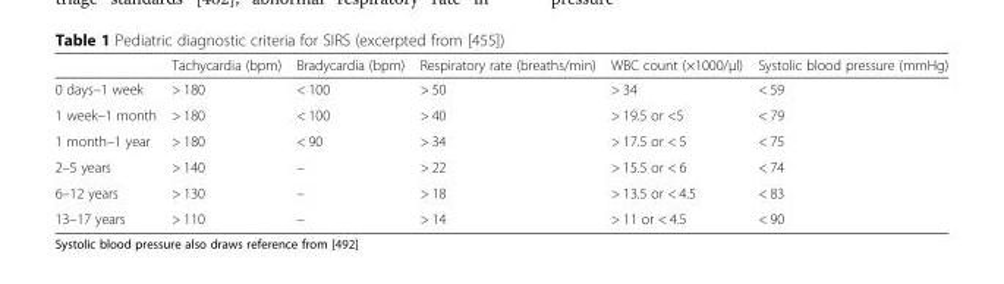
<table><thead><tr><td></td><td>Tachycardia (bpm)</td><td>Bradycardia (bpm)</td><td>Respiratory rate (breaths/min)</td><td>WBC count (×1000/μl)</td><td>Systolic blood pressure (mmHg)</td></tr></thead><tbody><tr><td>0 days–1 week</td><td>&gt; 180</td><td>&lt; 100</td><td>&gt; 50</td><td>&gt; 34</td><td>&lt; 59</td></tr><tr><td>1 week–1 month</td><td>&gt; 180</td><td>&lt; 100</td><td>&gt; 40</td><td>&gt; 19.5 or &lt;5</td><td>&lt; 79</td></tr><tr><td>1 month–1 year</td><td>&gt; 180</td><td>&lt; 90</td><td>&gt; 34</td><td>&gt; 17.5 or &lt; 5</td><td>&lt; 75</td></tr><tr><td>2–5 years</td><td>&gt; 140</td><td>–</td><td>&gt; 22</td><td>&gt; 15.5 or &lt; 6</td><td>&lt; 74</td></tr><tr><td>6–12 years</td><td>&gt; 130</td><td>–</td><td>&gt; 18</td><td>&gt; 13.5 or &lt; 4.5</td><td>&lt; 83</td></tr><tr><td>13–17 years</td><td>&gt; 110</td><td>–</td><td>&gt; 14</td><td>&gt; 11 or &lt; 4.5</td><td>&lt; 90</td></tr></tbody></table>